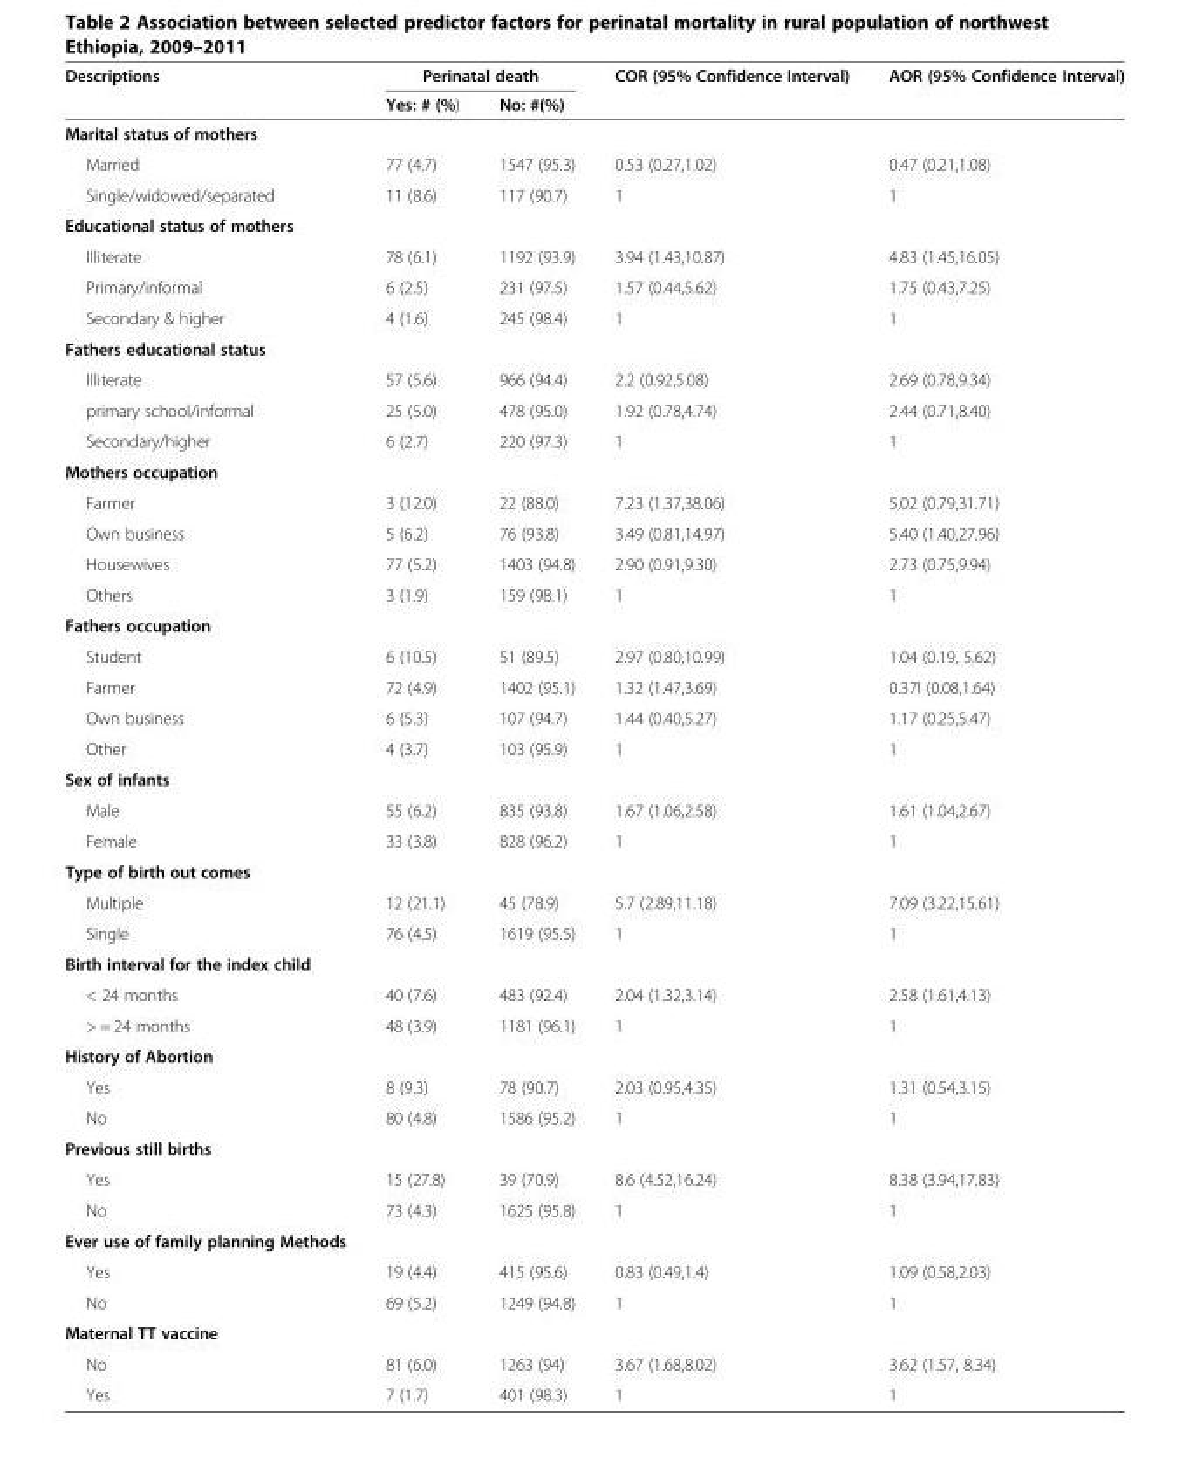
<table><thead><tr><td rowspan="2">Descriptions</td><td colspan="2">Perinatal death</td><td rowspan="2">COR (95% Confidence Interval)</td><td rowspan="2">AOR (95% Confidence Interval)</td></tr><tr><td>Yes: # (%)</td><td>No: #(%)</td></tr></thead><tbody><tr><td colspan="5">Marital status of mothers</td></tr><tr><td>Married</td><td>77 (4.7)</td><td>1547 (95.3)</td><td>0.53 (0.27,1.02)</td><td>0.47 (0.21,1.08)</td></tr><tr><td>Single/widowed/separated</td><td>11 (8.6)</td><td>117 (90.7)</td><td>1</td><td>1</td></tr><tr><td colspan="5">Educational status of mothers</td></tr><tr><td>Illiterate</td><td>78 (6.1)</td><td>1192 (93.9)</td><td>3.94 (1.43,10.87)</td><td>4.83 (1.45,16.05)</td></tr><tr><td>Primary/informal</td><td>6 (2.5)</td><td>231 (97.5)</td><td>1.57 (0.44,5.62)</td><td>1.75 (0.43,7.25)</td></tr><tr><td>Secondary &amp; higher</td><td>4 (1.6)</td><td>245 (98.4)</td><td>1</td><td>1</td></tr><tr><td colspan="5">Fathers educational status</td></tr><tr><td>Illiterate</td><td>57 (5.6)</td><td>966 (94.4)</td><td>2.2 (0.92,5.08)</td><td>2.69 (0.78,9.34)</td></tr><tr><td>primary school/informal</td><td>25 (5.0)</td><td>478 (95.0)</td><td>1.92 (0.78,4.74)</td><td>2.44 (0.71,8.40)</td></tr><tr><td>Secondary/higher</td><td>6 (2.7)</td><td>220 (97.3)</td><td>1</td><td>1</td></tr><tr><td colspan="5">Mothers occupation</td></tr><tr><td>Farmer</td><td>3 (12.0)</td><td>22 (88.0)</td><td>7.23 (1.37,38.06)</td><td>5.02 (0.79,31.71)</td></tr><tr><td>Own business</td><td>5 (6.2)</td><td>76 (93.8)</td><td>3.49 (0.81,14.97)</td><td>5.40 (1.40,27.96)</td></tr><tr><td>Housewives</td><td>77 (5.2)</td><td>1403 (94.8)</td><td>2.90 (0.91,9.30)</td><td>2.73 (0.75,9.94)</td></tr><tr><td>Others</td><td>3 (1.9)</td><td>159 (98.1)</td><td>1</td><td>1</td></tr><tr><td colspan="5">Fathers occupation</td></tr><tr><td>Student</td><td>6 (10.5)</td><td>51 (89.5)</td><td>2.97 (0.80,10.99)</td><td>1.04 (0.19, 5.62)</td></tr><tr><td>Farmer</td><td>72 (4.9)</td><td>1402 (95.1)</td><td>1.32 (1.47,3.69)</td><td>0.37I (0.08,1.64)</td></tr><tr><td>Own business</td><td>6 (5.3)</td><td>107 (94.7)</td><td>1.44 (0.40,5.27)</td><td>1.17 (0.25,5.47)</td></tr><tr><td>Other</td><td>4 (3.7)</td><td>103 (95.9)</td><td>1</td><td>1</td></tr><tr><td colspan="5">Sex of infants</td></tr><tr><td>Male</td><td>55 (6.2)</td><td>835 (93.8)</td><td>1.67 (1.06,2.58)</td><td>1.61 (1.04,2.67)</td></tr><tr><td>Female</td><td>33 (3.8)</td><td>828 (96.2)</td><td>1</td><td>1</td></tr><tr><td colspan="5">Type of birth out comes</td></tr><tr><td>Multiple</td><td>12 (21.1)</td><td>45 (78.9)</td><td>5.7 (2.89,11.18)</td><td>7.09 (3.22,15.61)</td></tr><tr><td>Single</td><td>76 (4.5)</td><td>1619 (95.5)</td><td>1</td><td>1</td></tr><tr><td colspan="5">Birth interval for the index child</td></tr><tr><td>&lt; 24 months</td><td>40 (7.6)</td><td>483 (92.4)</td><td>2.04 (1.32,3.14)</td><td>2.58 (1.61,4.13)</td></tr><tr><td>&gt; = 24 months</td><td>48 (3.9)</td><td>1181 (96.1)</td><td>1</td><td>1</td></tr><tr><td colspan="5">History of Abortion</td></tr><tr><td>Yes</td><td>8 (9.3)</td><td>78 (90.7)</td><td>2.03 (0.95,4.35)</td><td>1.31 (0.54,3.15)</td></tr><tr><td>No</td><td>80 (4.8)</td><td>1586 (95.2)</td><td>1</td><td>1</td></tr><tr><td colspan="5">Previous still births</td></tr><tr><td>Yes</td><td>15 (27.8)</td><td>39 (70.9)</td><td>8.6 (4.52,16.24)</td><td>8.38 (3.94,17.83)</td></tr><tr><td>No</td><td>73 (4.3)</td><td>1625 (95.8)</td><td>1</td><td>1</td></tr><tr><td colspan="5">Ever use of family planning Methods</td></tr><tr><td>Yes</td><td>19 (4.4)</td><td>415 (95.6)</td><td>0.83 (0.49,1.4)</td><td>1.09 (0.58,2.03)</td></tr><tr><td>No</td><td>69 (5.2)</td><td>1249 (94.8)</td><td>1</td><td>1</td></tr><tr><td colspan="5">Maternal TT vaccine</td></tr><tr><td>No</td><td>81 (6.0)</td><td>1263 (94)</td><td>3.67 (1.68,8.02)</td><td>3.62 (1.57, 8.34)</td></tr><tr><td>Yes</td><td>7 (1.7)</td><td>401 (98.3)</td><td>1</td><td>1</td></tr></tbody></table>